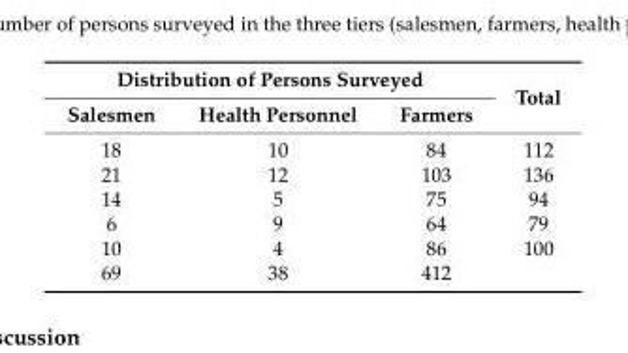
<table><thead><tr><td colspan="3">Distribution of Persons Surveyed</td><td rowspan="2">Total</td></tr><tr><td>Salesmen</td><td>Health Personnel</td><td>Farmers</td></tr></thead><tbody><tr><td>18</td><td>10</td><td>84</td><td>112</td></tr><tr><td>21</td><td>12</td><td>103</td><td>136</td></tr><tr><td>14</td><td>5</td><td>75</td><td>94</td></tr><tr><td>6</td><td>9</td><td>64</td><td>79</td></tr><tr><td>10</td><td>4</td><td>86</td><td>100</td></tr><tr><td>69</td><td>38</td><td>412</td><td></td></tr></tbody></table>